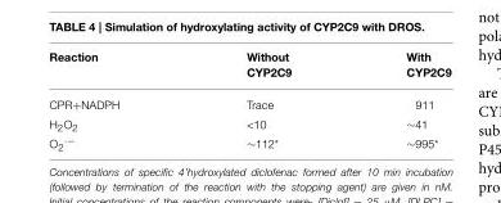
<table><thead><tr><td>Reaction</td><td>Without CYP2C9</td><td>With CYP2C9</td></tr></thead><tbody><tr><td>CPR+NADPH</td><td>Trace</td><td>911</td></tr><tr><td>H<sub>2</sub>O<sub>2</sub></td><td>&lt;10</td><td>∼41</td></tr><tr><td>O<sub>2</sub>·−</td><td>∼112*</td><td>∼995*</td></tr></tbody></table>